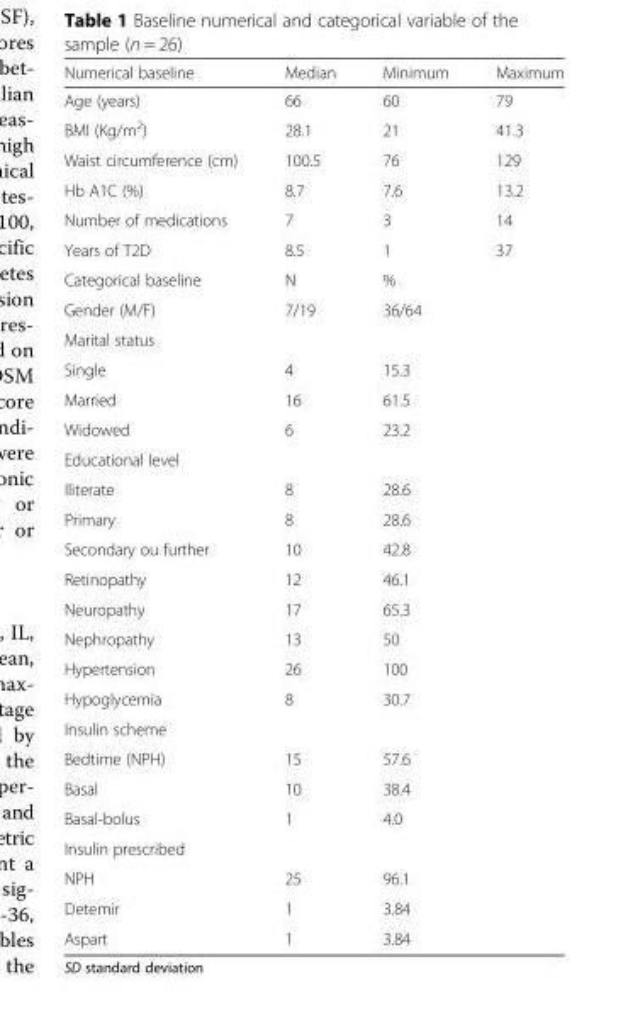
<table><thead><tr><td>Numerical baseline</td><td>Median</td><td>Minimum</td><td>Maximum</td></tr></thead><tbody><tr><td>Age (years)</td><td>66</td><td>60</td><td>79</td></tr><tr><td>BMI (Kg/m<sup>2</sup>)</td><td>28.1</td><td>21</td><td>41.3</td></tr><tr><td>Waist circumference (cm)</td><td>100.5</td><td>76</td><td>129</td></tr><tr><td>Hb A1C (%)</td><td>8.7</td><td>7.6</td><td>13.2</td></tr><tr><td>Number of medications</td><td>7</td><td>3</td><td>14</td></tr><tr><td>Years of T2D</td><td>8.5</td><td>1</td><td>37</td></tr><tr><td>Categorical baseline</td><td>N</td><td>%</td><td></td></tr><tr><td>Gender (M/F)</td><td>7/19</td><td>36/64</td><td></td></tr><tr><td colspan="4">Marital status</td></tr><tr><td>Single</td><td>4</td><td>15.3</td><td></td></tr><tr><td>Married</td><td>16</td><td>61.5</td><td></td></tr><tr><td>Widowed</td><td>6</td><td>23.2</td><td></td></tr><tr><td colspan="4">Educational level</td></tr><tr><td>Iliterate</td><td>8</td><td>28.6</td><td></td></tr><tr><td>Primary</td><td>8</td><td>28.6</td><td></td></tr><tr><td>Secondary ou further</td><td>10</td><td>42.8</td><td></td></tr><tr><td>Retinopathy</td><td>12</td><td>46.1</td><td></td></tr><tr><td>Neuropathy</td><td>17</td><td>65.3</td><td></td></tr><tr><td>Nephropathy</td><td>13</td><td>50</td><td></td></tr><tr><td>Hypertension</td><td>26</td><td>100</td><td></td></tr><tr><td>Hypoglycemia</td><td>8</td><td>30.7</td><td></td></tr><tr><td colspan="4">Insulin scheme</td></tr><tr><td>Bedtime (NPH)</td><td>15</td><td>57.6</td><td></td></tr><tr><td>Basal</td><td>10</td><td>38.4</td><td></td></tr><tr><td>Basal-bolus</td><td>1</td><td>4.0</td><td></td></tr><tr><td colspan="4">Insulin prescribed</td></tr><tr><td>NPH</td><td>25</td><td>96.1</td><td></td></tr><tr><td>Detemir</td><td>1</td><td>3.84</td><td></td></tr><tr><td>Aspart</td><td>1</td><td>3.84</td><td></td></tr></tbody></table>